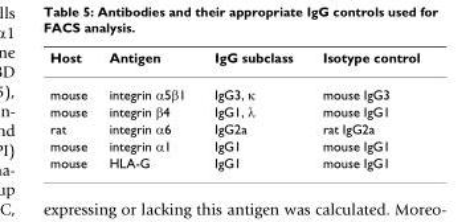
<table><thead><tr><td>Host</td><td>Antigen</td><td>IgG subclass</td><td>Isotype control</td></tr></thead><tbody><tr><td>mouse</td><td>integrin α5β1</td><td>IgG3, κ</td><td>mouse IgG3</td></tr><tr><td>mouse</td><td>integrin β4</td><td>IgG1, λ</td><td>mouse IgG1</td></tr><tr><td>rat</td><td>integrin α6</td><td>IgG2a</td><td>rat IgG2a</td></tr><tr><td>mouse</td><td>integrin α1</td><td>IgG1</td><td>mouse IgG1</td></tr><tr><td>mouse</td><td>HLA-G</td><td>IgG1</td><td>mouse IgG1</td></tr></tbody></table>